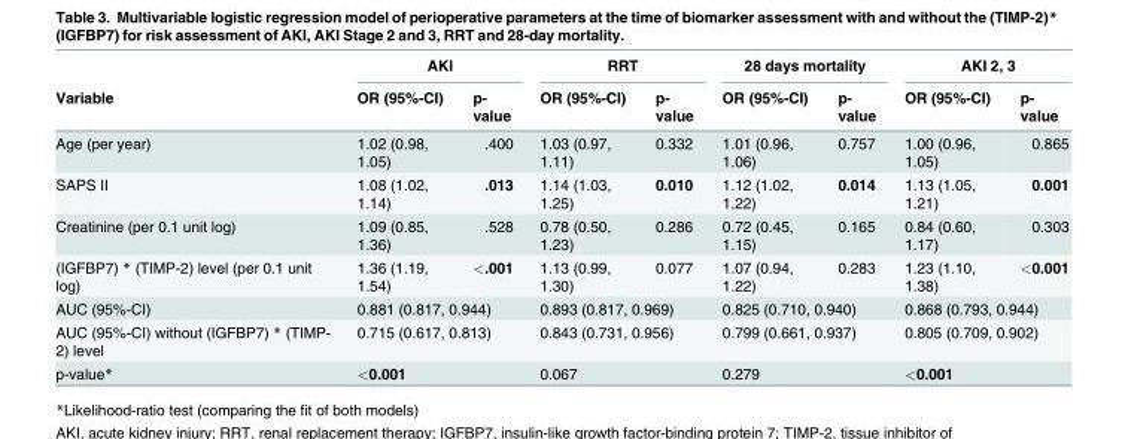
<table><thead><tr><td rowspan="2">Variable</td><td colspan="2">AKI</td><td colspan="2">RRT</td><td colspan="2">28 days mortality</td><td colspan="2">AKI 2, 3</td></tr><tr><td>OR (95%-CI)</td><td>p- value</td><td>OR (95%-CI)</td><td>p- value</td><td>OR (95%-CI)</td><td>p- value</td><td>OR (95%-CI)</td><td>p- value</td></tr></thead><tbody><tr><td>Age (per year)</td><td>1.02 (0.98, 1.05)</td><td>.400</td><td>1.03 (0.97, 1.11)</td><td>0.332</td><td>1.01 (0.96, 1.06)</td><td>0.757</td><td>1.00 (0.96, 1.05)</td><td>0.865</td></tr><tr><td>SAPS II</td><td>1.08 (1.02, 1.14)</td><td>.013</td><td>1.14 (1.03, 1.25)</td><td>0.010</td><td>1.12 (1.02, 1.22)</td><td>0.014</td><td>1.13 (1.05, 1.21)</td><td>0.001</td></tr><tr><td>Creatinine (per 0.1 unit log)</td><td>1.09 (0.85, 1.36)</td><td>.528</td><td>0.78 (0.50, 1.23)</td><td>0.286</td><td>0.72 (0.45, 1.15)</td><td>0.165</td><td>0.84 (0.60, 1.17)</td><td>0.303</td></tr><tr><td>(IGFBP7) * (TIMP-2) level (per 0.1 unit log)</td><td>1.36 (1.19, 1.54)</td><td>&lt;.001</td><td>1.13 (0.99, 1.30)</td><td>0.077</td><td>1.07 (0.94, 1.22)</td><td>0.283</td><td>1.23 (1.10, 1.38)</td><td>&lt;0.001</td></tr><tr><td>AUC (95%-CI)</td><td colspan="2">0.881 (0.817, 0.944)</td><td colspan="2">0.893 (0.817, 0.969)</td><td colspan="2">0.825 (0.710, 0.940)</td><td colspan="2">0.868 (0.793, 0.944)</td></tr><tr><td>AUC (95%-CI) without (IGFBP7) * (TIMP- 2) level</td><td colspan="2">0.715 (0.617, 0.813)</td><td colspan="2">0.843 (0.731, 0.956)</td><td colspan="2">0.799 (0.661, 0.937)</td><td colspan="2">0.805 (0.709, 0.902)</td></tr><tr><td>p-value*</td><td colspan="2">&lt;0.001</td><td colspan="2">0.067</td><td colspan="2">0.279</td><td colspan="2">&lt;0.001</td></tr></tbody></table>